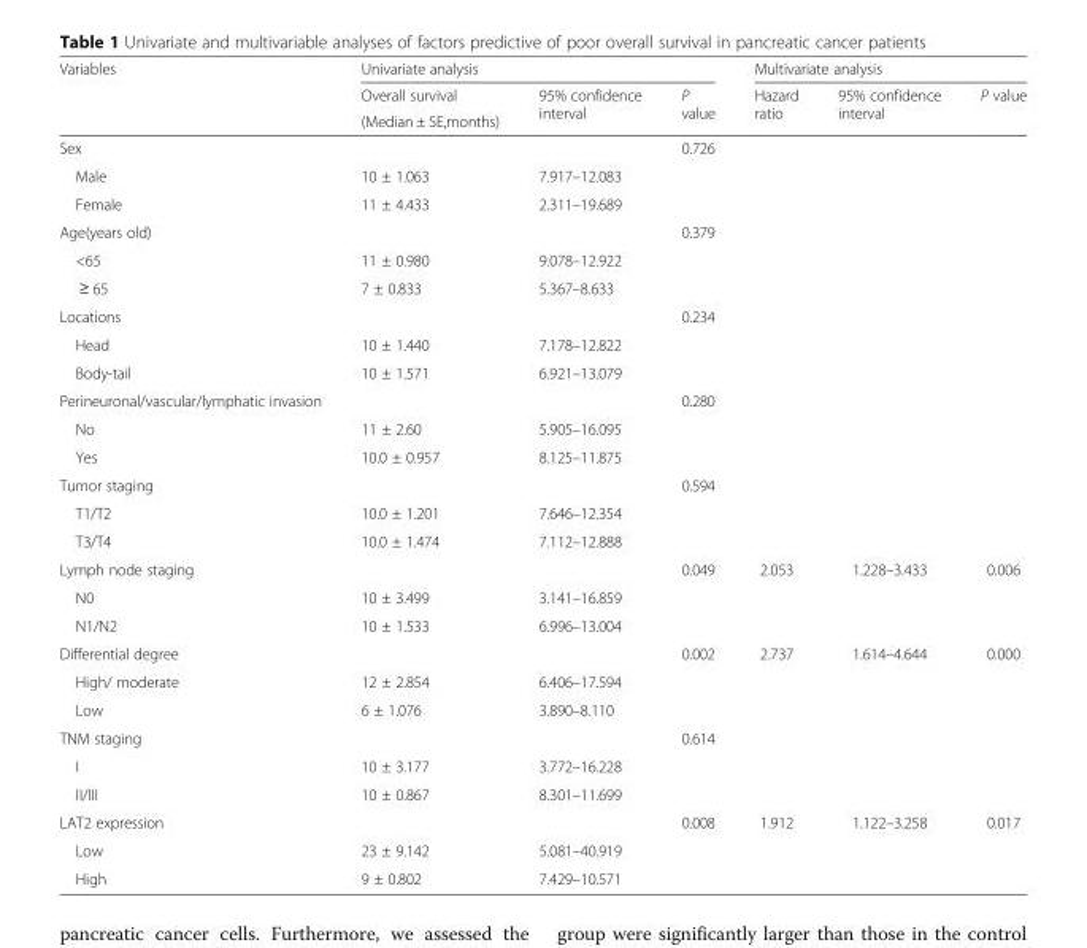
<table><thead><tr><td rowspan="3">Variables</td><td colspan="3">Univariate analysis</td><td colspan="3">Multivariate analysis</td></tr><tr><td rowspan="2">Overall survival (Median ± SE,months)</td><td rowspan="2">95% confidence interval</td><td rowspan="2">P value</td><td rowspan="2">Hazard ratio</td><td rowspan="2">95% confidence interval</td><td rowspan="2">P value</td></tr><tr></tr></thead><tbody><tr><td>Sex</td><td></td><td></td><td>0.726</td><td></td><td></td><td></td></tr><tr><td>Male</td><td>10 ± 1.063</td><td>7.917–12.083</td><td></td><td></td><td></td><td></td></tr><tr><td>Female</td><td>11 ± 4.433</td><td>2.311–19.689</td><td></td><td></td><td></td><td></td></tr><tr><td>Age(years old)</td><td></td><td></td><td>0.379</td><td></td><td></td><td></td></tr><tr><td>&lt;65</td><td>11 ± 0.980</td><td>9.078–12.922</td><td></td><td></td><td></td><td></td></tr><tr><td>≥ 65</td><td>7 ± 0.833</td><td>5.367–8.633</td><td></td><td></td><td></td><td></td></tr><tr><td>Locations</td><td></td><td></td><td>0.234</td><td></td><td></td><td></td></tr><tr><td>Head</td><td>10 ± 1.440</td><td>7.178–12.822</td><td></td><td></td><td></td><td></td></tr><tr><td>Body-tail</td><td>10 ± 1.571</td><td>6.921–13.079</td><td></td><td></td><td></td><td></td></tr><tr><td>Perineuronal/vascular/lymphatic invasion</td><td></td><td></td><td>0.280</td><td></td><td></td><td></td></tr><tr><td>No</td><td>11 ± 2.60</td><td>5.905–16.095</td><td></td><td></td><td></td><td></td></tr><tr><td>Yes</td><td>10.0 ± 0.957</td><td>8.125–11.875</td><td></td><td></td><td></td><td></td></tr><tr><td>Tumor staging</td><td></td><td></td><td>0.594</td><td></td><td></td><td></td></tr><tr><td>T1/T2</td><td>10.0 ± 1.201</td><td>7.646–12.354</td><td></td><td></td><td></td><td></td></tr><tr><td>T3/T4</td><td>10.0 ± 1.474</td><td>7.112–12.888</td><td></td><td></td><td></td><td></td></tr><tr><td>Lymph node staging</td><td></td><td></td><td>0.049</td><td>2.053</td><td>1.228–3.433</td><td>0.006</td></tr><tr><td>N0</td><td>10 ± 3.499</td><td>3.141–16.859</td><td></td><td></td><td></td><td></td></tr><tr><td>N1/N2</td><td>10 ± 1.533</td><td>6.996–13.004</td><td></td><td></td><td></td><td></td></tr><tr><td>Differential degree</td><td></td><td></td><td>0.002</td><td>2.737</td><td>1.614–4.644</td><td>0.000</td></tr><tr><td>High/ moderate</td><td>12 ± 2.854</td><td>6.406–17.594</td><td></td><td></td><td></td><td></td></tr><tr><td>Low</td><td>6 ± 1.076</td><td>3.890–8.110</td><td></td><td></td><td></td><td></td></tr><tr><td>TNM staging</td><td></td><td></td><td>0.614</td><td></td><td></td><td></td></tr><tr><td>I</td><td>10 ± 3.177</td><td>3.772–16.228</td><td></td><td></td><td></td><td></td></tr><tr><td>II/III</td><td>10 ± 0.867</td><td>8.301–11.699</td><td></td><td></td><td></td><td></td></tr><tr><td>LAT2 expression</td><td></td><td></td><td>0.008</td><td>1.912</td><td>1.122–3.258</td><td>0.017</td></tr><tr><td>Low</td><td>23 ± 9.142</td><td>5.081–40.919</td><td></td><td></td><td></td><td></td></tr><tr><td>High</td><td>9 ± 0.802</td><td>7.429–10.571</td><td></td><td></td><td></td><td></td></tr></tbody></table>